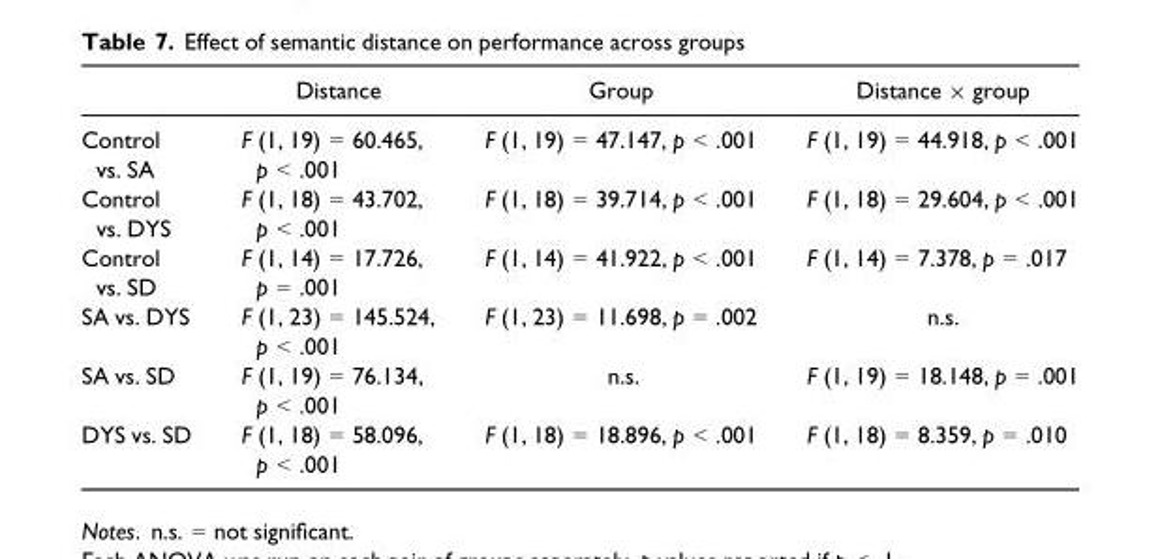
<table><thead><tr><td></td><td>Distance</td><td>Group</td><td>Distance × group</td></tr></thead><tbody><tr><td>Control vs. SA</td><td>F (1, 19) = 60.465, p &lt; .001</td><td>F (1, 19) = 47.147, p &lt; .001</td><td>F (1, 19) = 44.918, p &lt; .001</td></tr><tr><td>Control vs. DYS</td><td>F (1, 18) = 43.702, p &lt; .001</td><td>F (1, 18) = 39.714, p &lt; .001</td><td>F (1, 18) = 29.604, p &lt; .001</td></tr><tr><td>Control vs. SD</td><td>F (1, 14) = 17.726, p = .001</td><td>F (1, 14) = 41.922, p &lt; .001</td><td>F (1, 14) = 7.378, p = .017</td></tr><tr><td>SA vs. DYS</td><td>F (1, 23) = 145.524, p &lt; .001</td><td>F (1, 23) = 11.698, p = .002</td><td>n.s.</td></tr><tr><td>SA vs. SD</td><td>F (1, 19) = 76.134, p &lt; .001</td><td>n.s.</td><td>F (1, 19) = 18.148, p = .001</td></tr><tr><td>DYS vs. SD</td><td>F (1, 18) = 58.096, p &lt; .001</td><td>F (1, 18) = 18.896, p &lt; .001</td><td>F (1, 18) = 8.359, p = .010</td></tr></tbody></table>